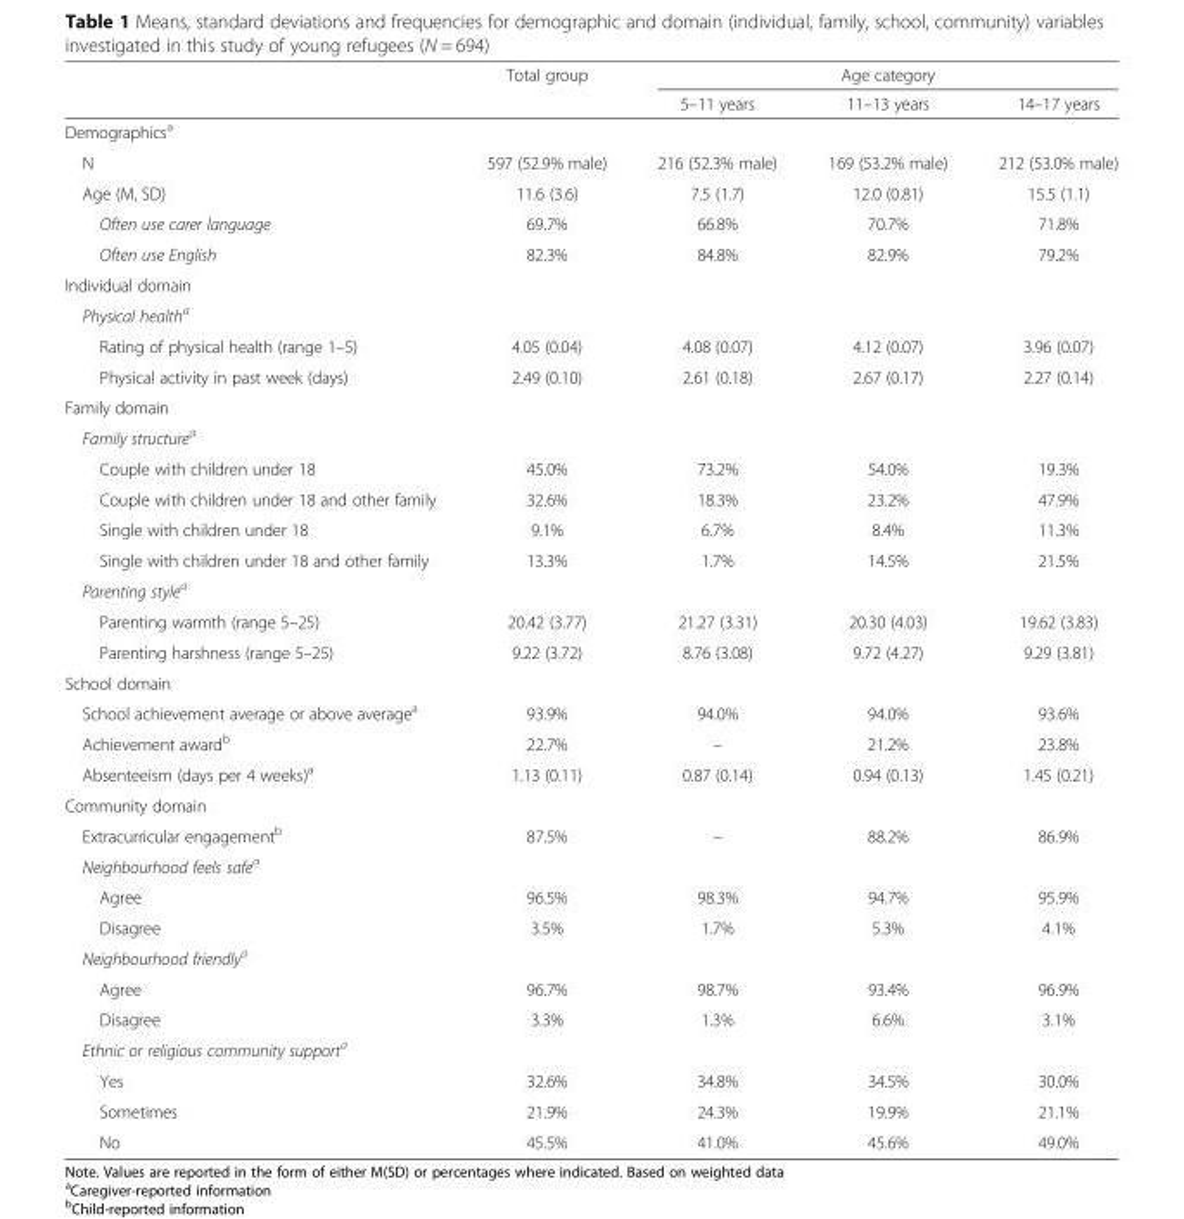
<table><thead><tr><td rowspan="2"></td><td rowspan="2">Total group</td><td colspan="3">Age category</td></tr><tr><td>5–11 years</td><td>11–13 years</td><td>14–17 years</td></tr></thead><tbody><tr><td colspan="5">Demographics<sup>a</sup></td></tr><tr><td>N</td><td>597 (52.9% male)</td><td>216 (52.3% male)</td><td>169 (53.2% male)</td><td>212 (53.0% male)</td></tr><tr><td>Age (M, SD)</td><td>11.6 (3.6)</td><td>7.5 (1.7)</td><td>12.0 (0.81)</td><td>15.5 (1.1)</td></tr><tr><td>Often use carer language</td><td>69.7%</td><td>66.8%</td><td>70.7%</td><td>71.8%</td></tr><tr><td>Often use English</td><td>82.3%</td><td>84.8%</td><td>82.9%</td><td>79.2%</td></tr><tr><td colspan="5">Individual domain</td></tr><tr><td colspan="5">Physical health<sup>a</sup></td></tr><tr><td>Rating of physical health (range 1–5)</td><td>4.05 (0.04)</td><td>4.08 (0.07)</td><td>4.12 (0.07)</td><td>3.96 (0.07)</td></tr><tr><td>Physical activity in past week (days)</td><td>2.49 (0.10)</td><td>2.61 (0.18)</td><td>2.67 (0.17)</td><td>2.27 (0.14)</td></tr><tr><td colspan="5">Family domain</td></tr><tr><td colspan="5">Family structure<sup>a</sup></td></tr><tr><td>Couple with children under 18</td><td>45.0%</td><td>73.2%</td><td>54.0%</td><td>19.3%</td></tr><tr><td>Couple with children under 18 and other family</td><td>32.6%</td><td>18.3%</td><td>23.2%</td><td>47.9%</td></tr><tr><td>Single with children under 18</td><td>9.1%</td><td>6.7%</td><td>8.4%</td><td>11.3%</td></tr><tr><td>Single with children under 18 and other family</td><td>13.3%</td><td>1.7%</td><td>14.5%</td><td>21.5%</td></tr><tr><td colspan="5">Parenting style<sup>a</sup></td></tr><tr><td>Parenting warmth (range 5–25)</td><td>20.42 (3.77)</td><td>21.27 (3.31)</td><td>20.30 (4.03)</td><td>19.62 (3.83)</td></tr><tr><td>Parenting harshness (range 5–25)</td><td>9.22 (3.72)</td><td>8.76 (3.08)</td><td>9.72 (4.27)</td><td>9.29 (3.81)</td></tr><tr><td colspan="5">School domain</td></tr><tr><td>School achievement average or above average<sup>a</sup></td><td>93.9%</td><td>94.0%</td><td>94.0%</td><td>93.6%</td></tr><tr><td>Achievement award<sup>b</sup></td><td>22.7%</td><td>–</td><td>21.2%</td><td>23.8%</td></tr><tr><td>Absenteeism (days per 4 weeks)<sup>a</sup></td><td>1.13 (0.11)</td><td>0.87 (0.14)</td><td>0.94 (0.13)</td><td>1.45 (0.21)</td></tr><tr><td colspan="5">Community domain</td></tr><tr><td>Extracurricular engagement<sup>b</sup></td><td>87.5%</td><td>–</td><td>88.2%</td><td>86.9%</td></tr><tr><td colspan="5">Neighbourhood feels safe<sup>a</sup></td></tr><tr><td>Agree</td><td>96.5%</td><td>98.3%</td><td>94.7%</td><td>95.9%</td></tr><tr><td>Disagree</td><td>3.5%</td><td>1.7%</td><td>5.3%</td><td>4.1%</td></tr><tr><td colspan="5">Neighbourhood friendly<sup>a</sup></td></tr><tr><td>Agree</td><td>96.7%</td><td>98.7%</td><td>93.4%</td><td>96.9%</td></tr><tr><td>Disagree</td><td>3.3%</td><td>1.3%</td><td>6.6%</td><td>3.1%</td></tr><tr><td colspan="5">Ethnic or religious community support<sup>a</sup></td></tr><tr><td>Yes</td><td>32.6%</td><td>34.8%</td><td>34.5%</td><td>30.0%</td></tr><tr><td>Sometimes</td><td>21.9%</td><td>24.3%</td><td>19.9%</td><td>21.1%</td></tr><tr><td>No</td><td>45.5%</td><td>41.0%</td><td>45.6%</td><td>49.0%</td></tr></tbody></table>